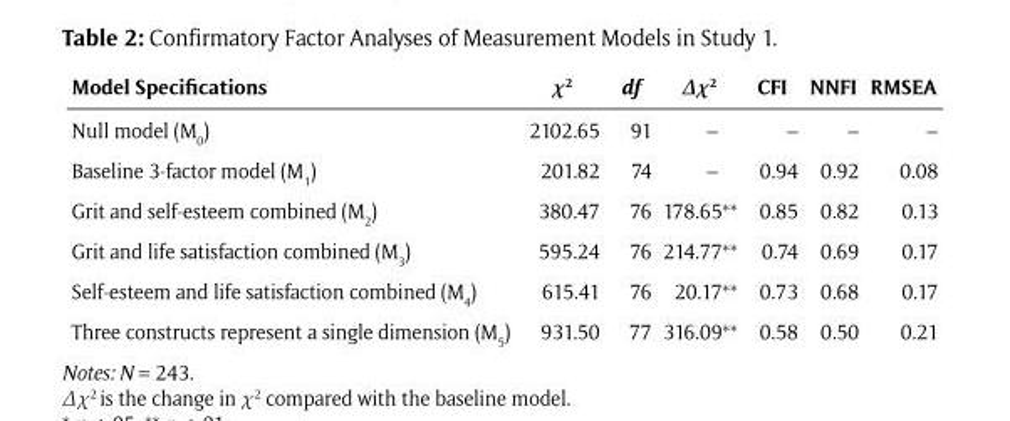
<table><thead><tr><td>Model Specifications</td><td>χ<sup>2</sup></td><td>df</td><td>Δχ2</td><td>CFI</td><td>NNFI</td><td>RMSEA</td></tr></thead><tbody><tr><td>Null model (M<sub>0</sub>)</td><td>2102.65</td><td>91</td><td>–</td><td>–</td><td>–</td><td>–</td></tr><tr><td>Baseline 3-factor model (M<sub>1</sub>)</td><td>201.82</td><td>74</td><td>–</td><td>0.94</td><td>0.92</td><td>0.08</td></tr><tr><td>Grit and self-esteem combined (M<sub>2</sub>)</td><td>380.47</td><td>76</td><td>178.65**</td><td>0.85</td><td>0.82</td><td>0.13</td></tr><tr><td>Grit and life satisfaction combined (M<sub>3</sub>)</td><td>595.24</td><td>76</td><td>214.77**</td><td>0.74</td><td>0.69</td><td>0.17</td></tr><tr><td>Self-esteem and life satisfaction combined (M<sub>4</sub>)</td><td>615.41</td><td>76</td><td>20.17**</td><td>0.73</td><td>0.68</td><td>0.17</td></tr><tr><td>Three constructs represent a single dimension (M<sub>5</sub>)</td><td>931.50</td><td>77</td><td>316.09**</td><td>0.58</td><td>0.50</td><td>0.21</td></tr></tbody></table>